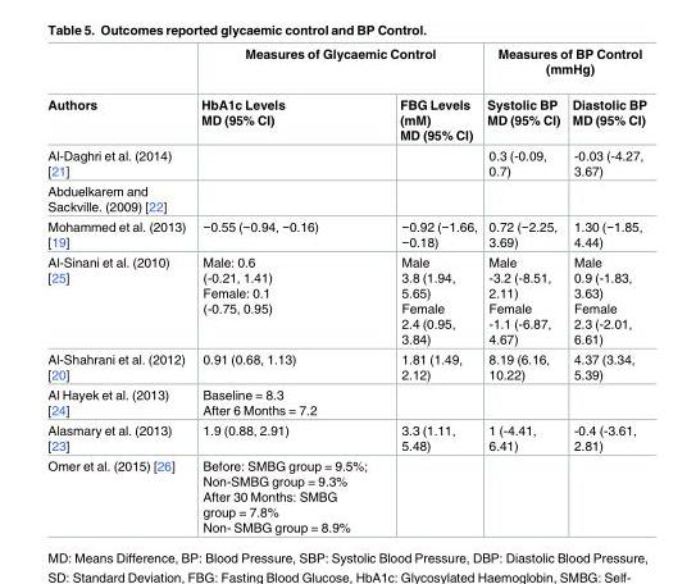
<table><thead><tr><td rowspan="2">Authors</td><td colspan="2">Measures of Glycaemic Control</td><td colspan="2">Measures of BP Control (mmHg)</td></tr><tr><td>HbA1c Levels MD (95% CI)</td><td>FBG Levels (mM) MD (95% CI)</td><td>Systolic BP MD (95% CI)</td><td>Diastolic BP MD (95% CI)</td></tr></thead><tbody><tr><td>Al-Daghri et al. (2014) [21]</td><td></td><td></td><td>0.3 (-0.09, 0.7)</td><td>-0.03 (-4.27, 3.67)</td></tr><tr><td colspan="5">Abduelkarem and Sackville. (2009) [22]</td></tr><tr><td>Mohammed et al. (2013) [19]</td><td>−0.55 (−0.94, −0.16)</td><td>−0.92 (−1.66, −0.18)</td><td>0.72 (−2.25, 3.69)</td><td>1.30 (−1.85, 4.44)</td></tr><tr><td>Al-Sinani et al. (2010) [25]</td><td>Male: 0.6 (-0.21, 1.41) Female: 0.1 (-0.75, 0.95)</td><td>Male 3.8 (1.94, 5.65) Female 2.4 (0.95, 3.84)</td><td>Male -3.2 (-8.51, 2.11) Female -1.1 (-6.87, 4.67)</td><td>Male 0.9 (-1.83, 3.63) Female 2.3 (-2.01, 6.61)</td></tr><tr><td>Al-Shahrani et al. (2012) [20]</td><td>0.91 (0.68, 1.13)</td><td>1.81 (1.49, 2.12)</td><td>8.19 (6.16, 10.22)</td><td>4.37 (3.34, 5.39)</td></tr><tr><td>Al Hayek et al. (2013) [24]</td><td>Baseline = 8.3 After 6 Months = 7.2</td><td></td><td></td><td></td></tr><tr><td>Alasmary et al. (2013) [23]</td><td>1.9 (0.88, 2.91)</td><td>3.3 (1.11, 5.48)</td><td>1 (-4.41, 6.41)</td><td>-0.4 (-3.61, 2.81)</td></tr><tr><td>Omer et al. (2015) [26]</td><td>Before: SMBG group = 9.5%; Non-SMBG group = 9.3% After 30 Months: SMBG group = 7.8% Non- SMBG group = 8.9%</td><td></td><td></td><td></td></tr></tbody></table>